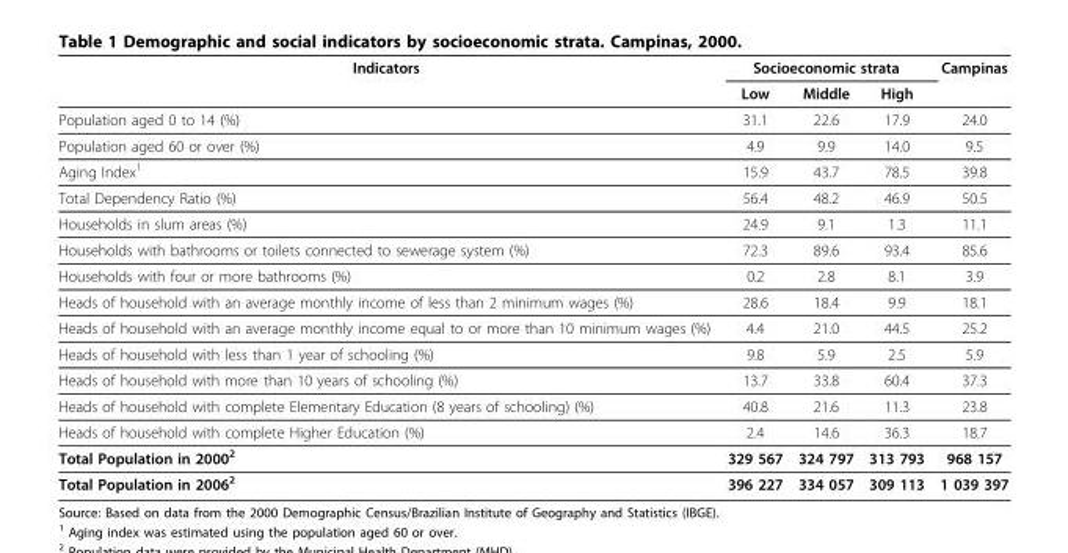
<table><thead><tr><td rowspan="2">Indicators</td><td colspan="3">Socioeconomic strata</td><td rowspan="2">Campinas</td></tr><tr><td>Low</td><td>Middle</td><td>High</td></tr></thead><tbody><tr><td>Population aged 0 to 14 (%)</td><td>31.1</td><td>22.6</td><td>17.9</td><td>24.0</td></tr><tr><td>Population aged 60 or over (%)</td><td>4.9</td><td>9.9</td><td>14.0</td><td>9.5</td></tr><tr><td>Aging Index<sup>1</sup></td><td>15.9</td><td>43.7</td><td>78.5</td><td>39.8</td></tr><tr><td>Total Dependency Ratio (%)</td><td>56.4</td><td>48.2</td><td>46.9</td><td>50.5</td></tr><tr><td>Households in slum areas (%)</td><td>24.9</td><td>9.1</td><td>1.3</td><td>11.1</td></tr><tr><td>Households with bathrooms or toilets connected to sewerage system (%)</td><td>72.3</td><td>89.6</td><td>93.4</td><td>85.6</td></tr><tr><td>Households with four or more bathrooms (%)</td><td>0.2</td><td>2.8</td><td>8.1</td><td>3.9</td></tr><tr><td>Heads of household with an average monthly income of less than 2 minimum wages (%)</td><td>28.6</td><td>18.4</td><td>9.9</td><td>18.1</td></tr><tr><td>Heads of household with an average monthly income equal to or more than 10 minimum wages (%)</td><td>4.4</td><td>21.0</td><td>44.5</td><td>25.2</td></tr><tr><td>Heads of household with less than 1 year of schooling (%)</td><td>9.8</td><td>5.9</td><td>2.5</td><td>5.9</td></tr><tr><td>Heads of household with more than 10 years of schooling (%)</td><td>13.7</td><td>33.8</td><td>60.4</td><td>37.3</td></tr><tr><td>Heads of household with complete Elementary Education (8 years of schooling) (%)</td><td>40.8</td><td>21.6</td><td>11.3</td><td>23.8</td></tr><tr><td>Heads of household with complete Higher Education (%)</td><td>2.4</td><td>14.6</td><td>36.3</td><td>18.7</td></tr><tr><td>Total Population in 2000<sup>2</sup></td><td>329 567</td><td>324 797</td><td>313 793</td><td>968 157</td></tr><tr><td>Total Population in 2006<sup>2</sup></td><td>396 227</td><td>334 057</td><td>309 113</td><td>1 039 397</td></tr></tbody></table>